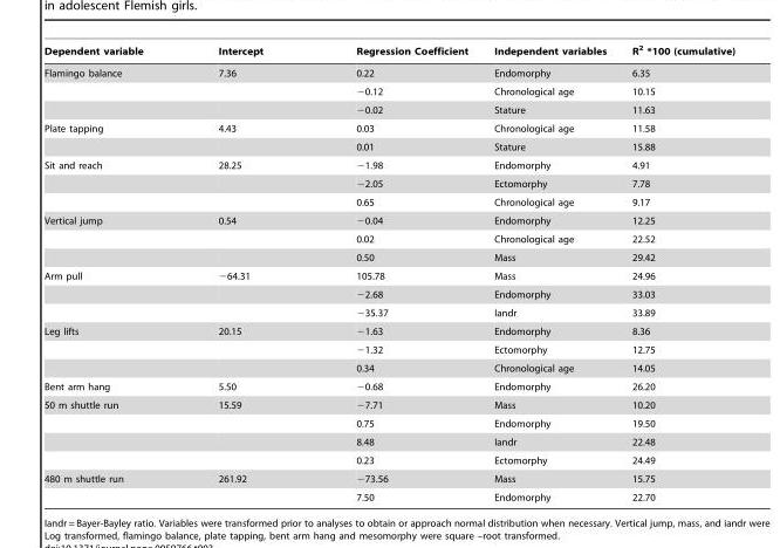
<table><thead><tr><td>Dependent variable</td><td>Intercept</td><td>Regression Coefficient</td><td>Independent variables</td><td>R<sup>2</sup> *100 (cumulative)</td></tr></thead><tbody><tr><td rowspan="3">Flamingo balance</td><td>7.36</td><td>0.22</td><td>Endomorphy</td><td>6.35</td></tr><tr><td></td><td>−0.12</td><td>Chronological age</td><td>10.15</td></tr><tr><td></td><td>−0.02</td><td>Stature</td><td>11.63</td></tr><tr><td rowspan="2">Plate tapping</td><td>4.43</td><td>0.03</td><td>Chronological age</td><td>11.58</td></tr><tr><td></td><td>0.01</td><td>Stature</td><td>15.88</td></tr><tr><td rowspan="3">Sit and reach</td><td>28.25</td><td>−1.98</td><td>Endomorphy</td><td>4.91</td></tr><tr><td></td><td>−2.05</td><td>Ectomorphy</td><td>7.78</td></tr><tr><td></td><td>0.65</td><td>Chronological age</td><td>9.17</td></tr><tr><td rowspan="3">Vertical jump</td><td>0.54</td><td>−0.04</td><td>Endomorphy</td><td>12.25</td></tr><tr><td></td><td>0.02</td><td>Chronological age</td><td>22.52</td></tr><tr><td></td><td>0.50</td><td>Mass</td><td>29.42</td></tr><tr><td rowspan="3">Arm pull</td><td>−64.31</td><td>105.78</td><td>Mass</td><td>24.96</td></tr><tr><td></td><td>−2.68</td><td>Endomorphy</td><td>33.03</td></tr><tr><td></td><td>−35.37</td><td>Iandr</td><td>33.89</td></tr><tr><td rowspan="3">Leg lifts</td><td>20.15</td><td>−1.63</td><td>Endomorphy</td><td>8.36</td></tr><tr><td></td><td>−1.32</td><td>Ectomorphy</td><td>12.75</td></tr><tr><td></td><td>0.34</td><td>Chronological age</td><td>14.05</td></tr><tr><td>Bent arm hang</td><td>5.50</td><td>−0.68</td><td>Endomorphy</td><td>26.20</td></tr><tr><td rowspan="4">50 m shuttle run</td><td>15.59</td><td>−7.71</td><td>Mass</td><td>10.20</td></tr><tr><td></td><td>0.75</td><td>Endomorphy</td><td>19.50</td></tr><tr><td></td><td>8.48</td><td>Iandr</td><td>22.48</td></tr><tr><td></td><td>0.23</td><td>Ectomorphy</td><td>24.49</td></tr><tr><td rowspan="2">480 m shuttle run</td><td>261.92</td><td>−73.56</td><td>Mass</td><td>15.75</td></tr><tr><td></td><td>7.50</td><td>Endomorphy</td><td>22.70</td></tr></tbody></table>